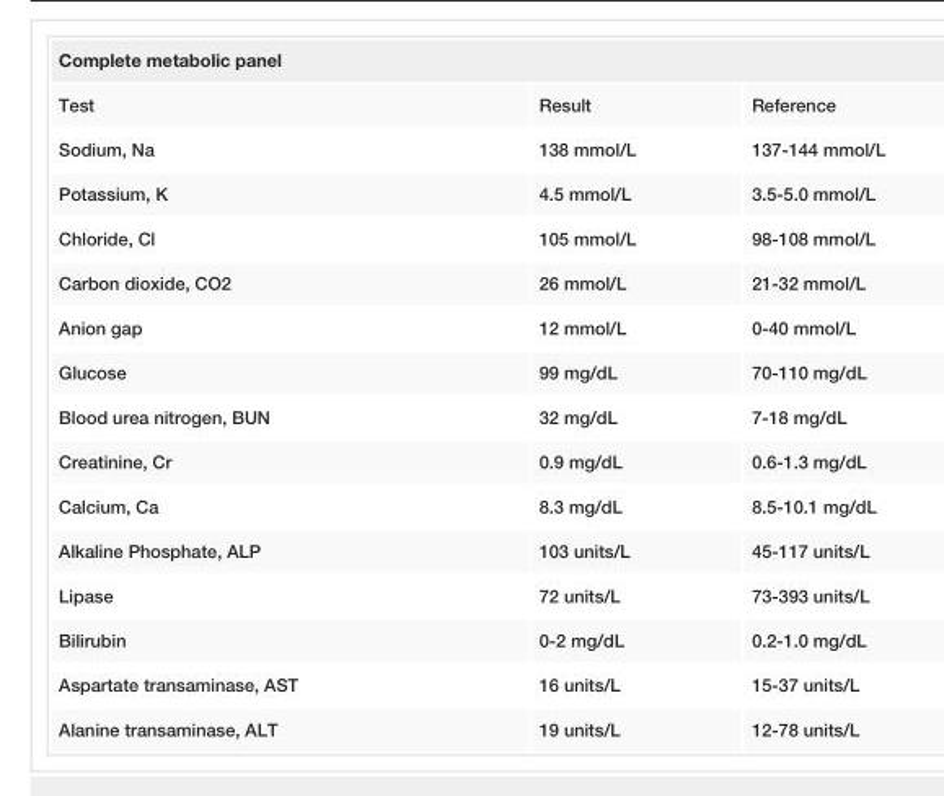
<table><tbody><tr><td colspan="3">Complete metabolic panel</td></tr><tr><td>Test</td><td>Result</td><td>Reference</td></tr><tr><td>Sodium, Na</td><td>138 mmol/L</td><td>137-144 mmol/L</td></tr><tr><td>Potassium, K</td><td>4.5 mmol/L</td><td>3.5-5.0 mmol/L</td></tr><tr><td>Chloride, Cl</td><td>105 mmol/L</td><td>98-108 mmol/L</td></tr><tr><td>Carbon dioxide, CO2</td><td>26 mmol/L</td><td>21-32 mmol/L</td></tr><tr><td>Anion gap</td><td>12 mmol/L</td><td>0-40 mmol/L</td></tr><tr><td>Glucose</td><td>99 mg/dL</td><td>70-110 mg/dL</td></tr><tr><td>Blood urea nitrogen, BUN</td><td>32 mg/dL</td><td>7-18 mg/dL</td></tr><tr><td>Creatinine, Cr</td><td>0.9 mg/dL</td><td>0.6-1.3 mg/dL</td></tr><tr><td>Calcium, Ca</td><td>8.3 mg/dL</td><td>8.5-10.1 mg/dL</td></tr><tr><td>Alkaline Phosphate, ALP</td><td>103 units/L</td><td>45-117 units/L</td></tr><tr><td>Lipase</td><td>72 units/L</td><td>73-393 units/L</td></tr><tr><td>Bilirubin</td><td>0-2 mg/dL</td><td>0.2-1.0 mg/dL</td></tr><tr><td>Aspartate transaminase, AST</td><td>16 units/L</td><td>15-37 units/L</td></tr><tr><td>Alanine transaminase, ALT</td><td>19 units/L</td><td>12-78 units/L</td></tr></tbody></table>